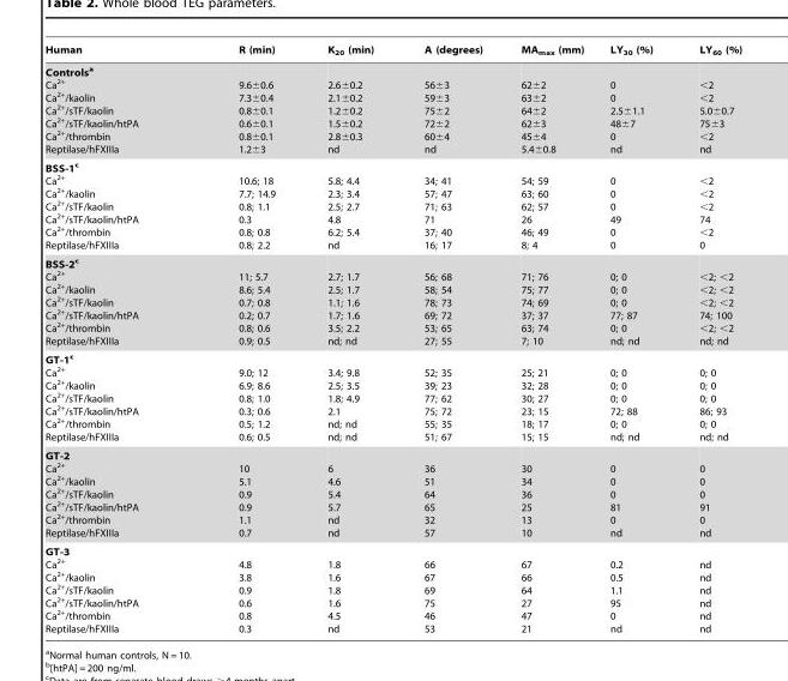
<table><thead><tr><td>Human</td><td>R (min)</td><td>K<sub>20</sub> (min)</td><td>A (degrees)</td><td>MA<sub>max</sub> (mm)</td><td>LY<sub>30</sub> (%)</td><td>LY<sub>60</sub> (%)</td></tr></thead><tbody><tr><td>Controlsa Ca<sup>2+</sup> Ca<sup>2+</sup>/kaolin Ca<sup>2+</sup>/sTF/kaolin Ca<sup>2+</sup>/sTF/kaolin/htPA Ca<sup>2+</sup>/thrombin Reptilase/hFXIIIa</td><td>9.6±0.6 7.3±0.4 0.8±0.1 0.6±0.1 0.8±0.1 1.2±3</td><td>2.6±0.2 2.1±0.2 1.2±0.2 1.5±0.2 2.8±0.3 nd</td><td>56±3 59±3 75±2 72±2 60±4 nd</td><td>62±2 63±2 64±2 62±3 45±4 5.4±0.8</td><td>0 0 2.5±1.1 48±7 0 nd</td><td>&lt;2 &lt;2 5.0±0.7 75±3 &lt;2 nd</td></tr><tr><td>BSS-1c Ca<sup>2+</sup> Ca<sup>2+</sup>/kaolin Ca<sup>2+</sup>/sTF/kaolin Ca<sup>2+</sup>/sTF/kaolin/htPA Ca<sup>2+</sup>/thrombin Reptilase/hFXIIIa</td><td>10.6; 18 7.7; 14.9 0.8; 1.1 0.3 0.8; 0.8 0.8; 2.2</td><td>5.8; 4.4 2.3; 3.4 2.5; 2.7 4.8 6.2; 5.4 nd</td><td>34; 41 57; 47 71; 63 71 37; 40 16; 17</td><td>54; 59 63; 60 62; 57 26 46; 49 8; 4</td><td>0 0 0 49 0 0</td><td>&lt;2 &lt;2 &lt;2 74 &lt;2 0</td></tr><tr><td>BSS-2c Ca<sup>2+</sup> Ca<sup>2+</sup>/kaolin Ca<sup>2+</sup>/sTF/kaolin Ca<sup>2+</sup>/sTF/kaolin/htPA Ca<sup>2+</sup>/thrombin Reptilase/hFXIIIa</td><td>11; 5.7 8.6; 5.4 0.7; 0.8 0.2; 0.7 0.8; 0.6 0.9; 0.5</td><td>2.7; 1.7 2.5; 1.7 1.1; 1.6 1.7; 1.6 3.5; 2.2 nd; nd</td><td>56; 68 58; 54 78; 73 69; 72 53; 65 27; 55</td><td>71; 76 75; 77 74; 69 37; 37 63; 74 7; 10</td><td>0; 0 0; 0 0; 0 77; 87 0; 0 nd; nd</td><td>&lt;2; &lt;2 &lt;2; &lt;2 &lt;2; &lt;2 74; 100 &lt;2; &lt;2 nd; nd</td></tr><tr><td>GT-1c Ca<sup>2+</sup> Ca<sup>2+</sup>/kaolin Ca<sup>2+</sup>/sTF/kaolin Ca<sup>2+</sup>/sTF/kaolin/htPA Ca<sup>2+</sup>/thrombin Reptilase/hFXIIIa</td><td>9.0; 12 6.9; 8.6 0.8; 1.0 0.3; 0.6 0.5; 1.2 0.6; 0.5</td><td>3.4; 9.8 2.5; 3.5 1.8; 4.9 2.1 nd; nd nd; nd</td><td>52; 35 39; 23 77; 62 75; 72 55; 35 51; 67</td><td>25; 21 32; 28 30; 27 23; 15 18; 17 15; 15</td><td>0; 0 0; 0 0; 0 72; 88 0; 0 nd; nd</td><td>0; 0 0; 0 0; 0 86; 93 0; 0 nd; nd</td></tr><tr><td>GT-2 Ca<sup>2+</sup> Ca<sup>2+</sup>/kaolin Ca<sup>2+</sup>/sTF/kaolin Ca<sup>2+</sup>/sTF/kaolin/htPA Ca<sup>2+</sup>/thrombin Reptilase/hFXIIIa</td><td>10 5.1 0.9 0.9 1.1 0.7</td><td>6 4.6 5.4 5.7 nd nd</td><td>36 51 64 65 32 57</td><td>30 34 36 25 13 10</td><td>0 0 0 81 0 nd</td><td>0 0 0 91 0 nd</td></tr><tr><td>GT-3 Ca<sup>2+</sup> Ca<sup>2+</sup>/kaolin Ca<sup>2+</sup>/sTF/kaolin Ca<sup>2+</sup>/sTF/kaolin/htPA Ca<sup>2+</sup>/thrombin Reptilase/hFXIIIa</td><td>4.8 3.8 0.9 0.6 0.8 0.3</td><td>1.8 1.6 1.8 1.6 4.5 nd</td><td>66 67 69 75 46 53</td><td>67 66 64 27 47 21</td><td>0.2 0.5 1.1 95 0 nd</td><td>nd nd nd nd nd nd</td></tr></tbody></table>